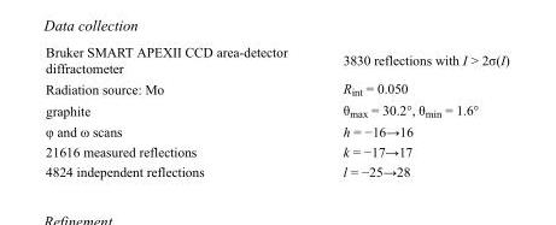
<table><tbody><tr><td>Bruker SMART APEXII CCD area-detector diffractometer</td><td>3830 reflections with I &gt; 2σ(I)</td></tr><tr><td>Radiation source: Mo</td><td>R<sub>int</sub> = 0.050</td></tr><tr><td>graphite</td><td>θ<sub>max</sub> = 30.2°, θ<sub>min</sub> = 1.6°</td></tr><tr><td>φ and ω scans</td><td>h = −16→16</td></tr><tr><td>21616 measured reflections</td><td>k = −17→17</td></tr><tr><td>4824 independent reflections</td><td>l = −25→28</td></tr></tbody></table>